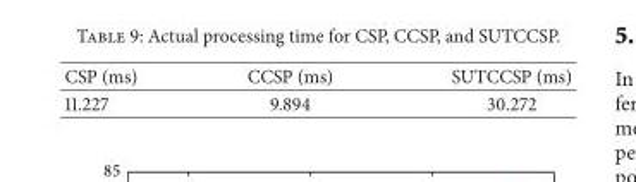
<table><thead><tr><td>CSP (ms)</td><td>CCSP (ms)</td><td>SUTCCSP (ms)</td></tr></thead><tbody><tr><td>11.227</td><td>9.894</td><td>30.272</td></tr></tbody></table>